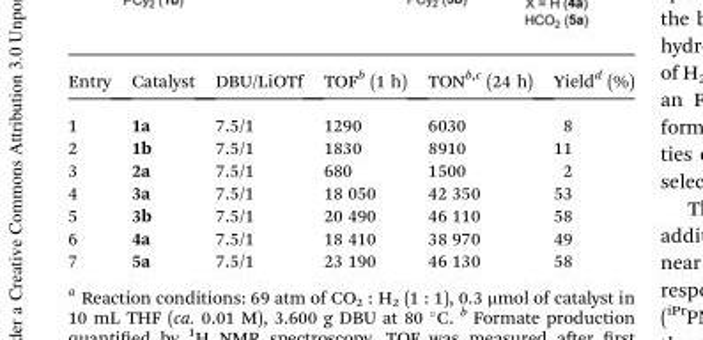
<table><thead><tr><td>Entry</td><td>Catalyst</td><td>DBU/LiOTf</td><td>TOF<sup>b</sup> (1 h)</td><td>TON<sup>b,c</sup> (24 h)</td><td>Yield<sup>d</sup> (%)</td></tr></thead><tbody><tr><td>1</td><td>1a</td><td>7.5/1</td><td>1290</td><td>6030</td><td>8</td></tr><tr><td>2</td><td>1b</td><td>7.5/1</td><td>1830</td><td>8910</td><td>11</td></tr><tr><td>3</td><td>2a</td><td>7.5/1</td><td>680</td><td>1500</td><td>2</td></tr><tr><td>4</td><td>3a</td><td>7.5/1</td><td>18 050</td><td>42 350</td><td>53</td></tr><tr><td>5</td><td>3b</td><td>7.5/1</td><td>20 490</td><td>46 110</td><td>58</td></tr><tr><td>6</td><td>4a</td><td>7.5/1</td><td>18 410</td><td>38 970</td><td>49</td></tr><tr><td>7</td><td>5a</td><td>7.5/1</td><td>23 190</td><td>46 130</td><td>58</td></tr></tbody></table>